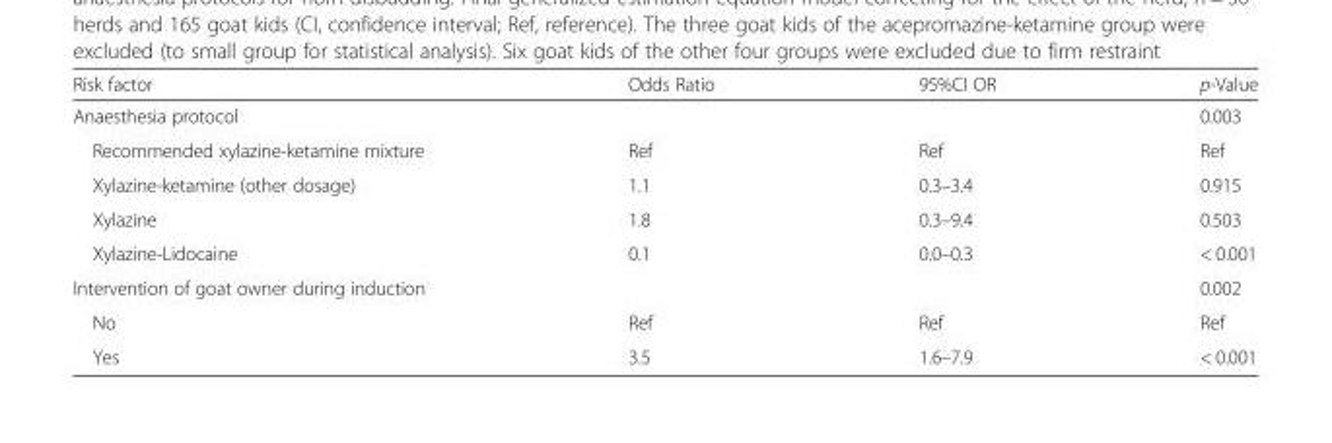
<table><thead><tr><td>Risk factor</td><td>Odds Ratio</td><td>95%CI OR</td><td>p-Value</td></tr></thead><tbody><tr><td colspan="3">Anaesthesia protocol</td><td>0.003</td></tr><tr><td>Recommended xylazine-ketamine mixture</td><td>Ref</td><td>Ref</td><td>Ref</td></tr><tr><td>Xylazine-ketamine (other dosage)</td><td>1.1</td><td>0.3–3.4</td><td>0.915</td></tr><tr><td>Xylazine</td><td>1.8</td><td>0.3–9.4</td><td>0.503</td></tr><tr><td>Xylazine-Lidocaine</td><td>0.1</td><td>0.0–0.3</td><td>&lt; 0.001</td></tr><tr><td colspan="3">Intervention of goat owner during induction</td><td>0.002</td></tr><tr><td>No</td><td>Ref</td><td>Ref</td><td>Ref</td></tr><tr><td>Yes</td><td>3.5</td><td>1.6–7.9</td><td>&lt; 0.001</td></tr></tbody></table>